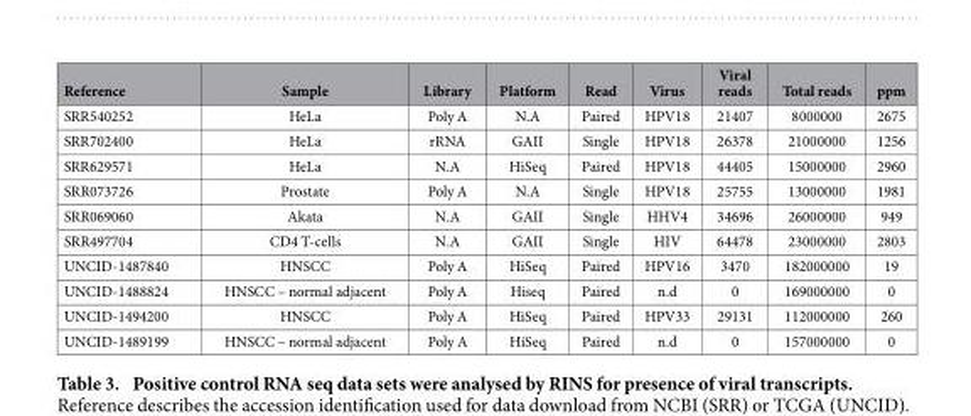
<table><thead><tr><td>Reference</td><td>Sample</td><td>Library</td><td>Platform</td><td>Read</td><td>Virus</td><td>Viral reads</td><td>Total reads</td><td>ppm</td></tr></thead><tbody><tr><td>SRR540252</td><td>HeLa</td><td>Poly A</td><td>N.A</td><td>Paired</td><td>HPV18</td><td>21407</td><td>8000000</td><td>2675</td></tr><tr><td>SRR702400</td><td>HeLa</td><td>rRNA</td><td>GAII</td><td>Single</td><td>HPV18</td><td>26378</td><td>21000000</td><td>1256</td></tr><tr><td>SRR629571</td><td>HeLa</td><td>N.A</td><td>HiSeq</td><td>Paired</td><td>HPV18</td><td>44405</td><td>15000000</td><td>2960</td></tr><tr><td>SRR073726</td><td>Prostate</td><td>Poly A</td><td>N.A</td><td>Single</td><td>HPV18</td><td>25755</td><td>13000000</td><td>1981</td></tr><tr><td>SRR069060</td><td>Akata</td><td>N.A</td><td>GAII</td><td>Single</td><td>HHV4</td><td>34696</td><td>26000000</td><td>949</td></tr><tr><td>SRR497704</td><td>CD4 T-cells</td><td>N.A</td><td>GAII</td><td>Single</td><td>HIV</td><td>64478</td><td>23000000</td><td>2803</td></tr><tr><td>UNCID-1487840</td><td>HNSCC</td><td>Poly A</td><td>HiSeq</td><td>Paired</td><td>HPV16</td><td>3470</td><td>182000000</td><td>19</td></tr><tr><td>UNCID-1488824</td><td>HNSCC – normal adjacent</td><td>Poly A</td><td>Hiseq</td><td>Paired</td><td>n.d</td><td>0</td><td>169000000</td><td>0</td></tr><tr><td>UNCID-1494200</td><td>HNSCC</td><td>Poly A</td><td>HiSeq</td><td>Paired</td><td>HPV33</td><td>29131</td><td>112000000</td><td>260</td></tr><tr><td>UNCID-1489199</td><td>HNSCC – normal adjacent</td><td>Poly A</td><td>HiSeq</td><td>Paired</td><td>n.d</td><td>0</td><td>157000000</td><td>0</td></tr></tbody></table>